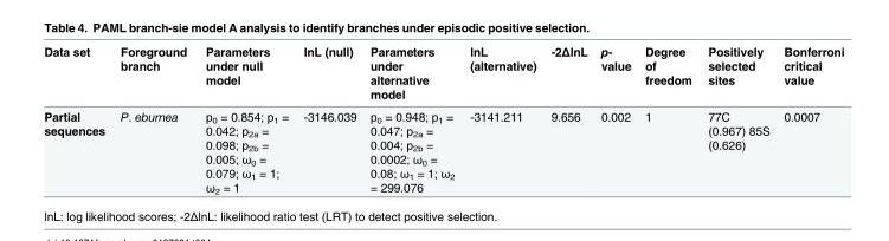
<table><thead><tr><td>Data set</td><td>Foreground branch</td><td>Parameters under null model</td><td>lnL (null)</td><td>Parameters under alternative model</td><td>lnL (alternative)</td><td>-2ΔlnL</td><td>p- value</td><td>Degree of freedom</td><td>Positively selected sites</td><td>Bonferroni critical value</td></tr></thead><tbody><tr><td>Partial sequences</td><td>P. eburnea</td><td>p<sub>0</sub> = 0.854; p<sub>1</sub> = 0.042; p<sub>2a</sub> = 0.098; p<sub>2b</sub> = 0.005; ω<sub>0</sub> = 0.079; ω<sub>1</sub> = 1; ω<sub>2</sub> = 1</td><td>-3146.039</td><td>p<sub>0</sub> = 0.948; p<sub>1</sub> = 0.047; p<sub>2a</sub> = 0.004; p<sub>2b</sub> = 0.0002; ω<sub>0</sub> = 0.08; ω<sub>1</sub> = 1; ω<sub>2</sub> = 299.076</td><td>-3141.211</td><td>9.656</td><td>0.002</td><td>1</td><td>77C (0.967) 85S (0.626)</td><td>0.0007</td></tr></tbody></table>